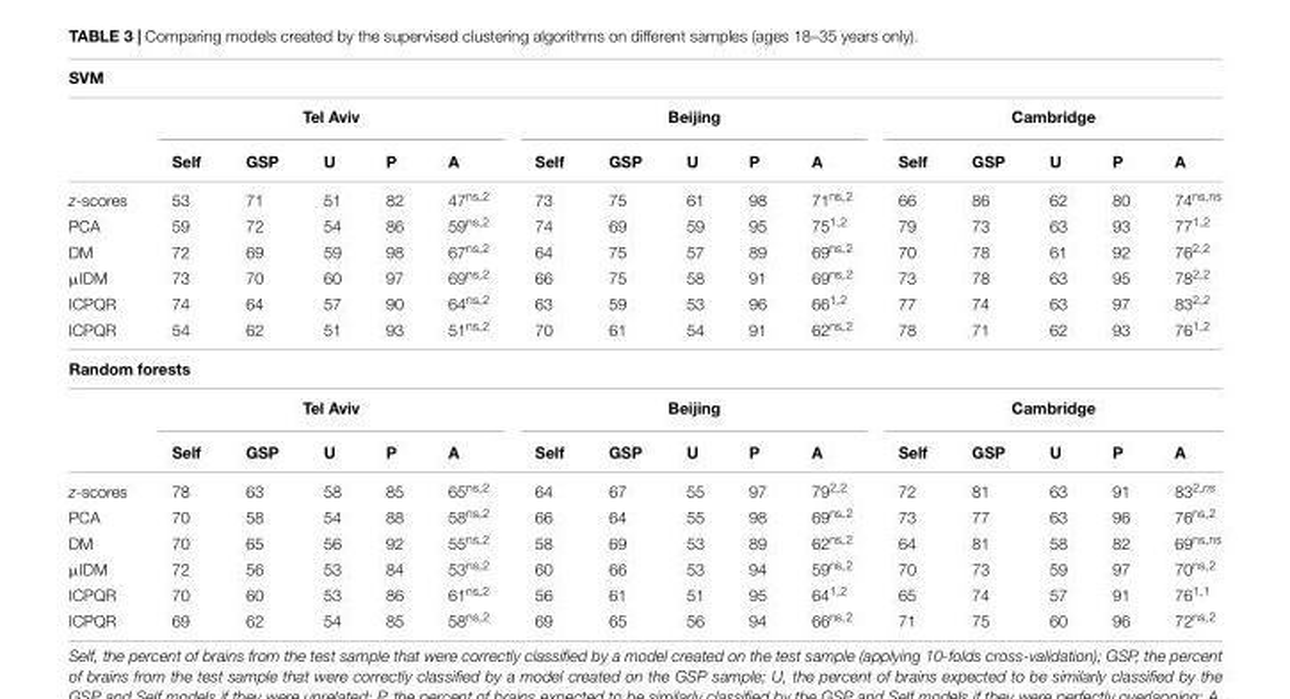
<table><thead><tr><td colspan="16">SVM</td></tr><tr><td rowspan="2"></td><td colspan="5">Tel Aviv</td><td colspan="5">Beijing</td><td colspan="5">Cambridge</td></tr><tr><td>Self</td><td>GSP</td><td>U</td><td>P</td><td>A</td><td>Self</td><td>GSP</td><td>U</td><td>P</td><td>A</td><td>Self</td><td>GSP</td><td>U</td><td>P</td><td>A</td></tr></thead><tbody><tr><td>z-scores</td><td>53</td><td>71</td><td>51</td><td>82</td><td>47<sup>ns,2</sup></td><td>73</td><td>75</td><td>61</td><td>98</td><td>71<sup>ns,2</sup></td><td>66</td><td>86</td><td>62</td><td>80</td><td>74<sup>ns,ns</sup></td></tr><tr><td>PCA</td><td>59</td><td>72</td><td>54</td><td>86</td><td>59<sup>ns,2</sup></td><td>74</td><td>69</td><td>59</td><td>95</td><td>75<sup>1,2</sup></td><td>79</td><td>73</td><td>63</td><td>93</td><td>77<sup>1,2</sup></td></tr><tr><td>DM</td><td>72</td><td>69</td><td>59</td><td>98</td><td>67<sup>ns,2</sup></td><td>64</td><td>75</td><td>57</td><td>89</td><td>69<sup>ns,2</sup></td><td>70</td><td>78</td><td>61</td><td>92</td><td>76<sup>2,2</sup></td></tr><tr><td>µIDM</td><td>73</td><td>70</td><td>60</td><td>97</td><td>69<sup>ns,2</sup></td><td>66</td><td>75</td><td>58</td><td>91</td><td>69<sup>ns,2</sup></td><td>73</td><td>78</td><td>63</td><td>95</td><td>78<sup>2,2</sup></td></tr><tr><td>ICPQR</td><td>74</td><td>64</td><td>57</td><td>90</td><td>64<sup>ns,2</sup></td><td>63</td><td>59</td><td>53</td><td>96</td><td>66<sup>1,2</sup></td><td>77</td><td>74</td><td>63</td><td>97</td><td>83<sup>2,2</sup></td></tr><tr><td>ICPQR</td><td>54</td><td>62</td><td>51</td><td>93</td><td>51<sup>ns,2</sup></td><td>70</td><td>61</td><td>54</td><td>91</td><td>62<sup>ns,2</sup></td><td>78</td><td>71</td><td>62</td><td>93</td><td>76<sup>1,2</sup></td></tr><tr><td colspan="16">Random forests</td></tr><tr><td></td><td colspan="5">Tel Aviv</td><td colspan="5">Beijing</td><td colspan="5">Cambridge</td></tr><tr><td></td><td>Self</td><td>GSP</td><td>U</td><td>P</td><td>A</td><td>Self</td><td>GSP</td><td>U</td><td>P</td><td>A</td><td>Self</td><td>GSP</td><td>U</td><td>P</td><td>A</td></tr><tr><td>z-scores</td><td>78</td><td>63</td><td>58</td><td>85</td><td>65<sup>ns,2</sup></td><td>64</td><td>67</td><td>55</td><td>97</td><td>79<sup>2,2</sup></td><td>72</td><td>81</td><td>63</td><td>91</td><td>83<sup>2,ns</sup></td></tr><tr><td>PCA</td><td>70</td><td>58</td><td>54</td><td>88</td><td>58<sup>ns,2</sup></td><td>66</td><td>64</td><td>55</td><td>98</td><td>69<sup>ns,2</sup></td><td>73</td><td>77</td><td>63</td><td>96</td><td>76<sup>ns,2</sup></td></tr><tr><td>DM</td><td>70</td><td>65</td><td>56</td><td>92</td><td>55<sup>ns,2</sup></td><td>58</td><td>69</td><td>53</td><td>89</td><td>62<sup>ns,2</sup></td><td>64</td><td>81</td><td>58</td><td>82</td><td>69<sup>ns,ns</sup></td></tr><tr><td>µIDM</td><td>72</td><td>56</td><td>53</td><td>84</td><td>53<sup>ns,2</sup></td><td>60</td><td>66</td><td>53</td><td>94</td><td>59<sup>ns,2</sup></td><td>70</td><td>73</td><td>59</td><td>97</td><td>70<sup>ns,2</sup></td></tr><tr><td>ICPQR</td><td>70</td><td>60</td><td>53</td><td>86</td><td>61<sup>ns,2</sup></td><td>56</td><td>61</td><td>51</td><td>95</td><td>64<sup>1,2</sup></td><td>65</td><td>74</td><td>57</td><td>91</td><td>76<sup>1,1</sup></td></tr><tr><td>ICPQR</td><td>69</td><td>62</td><td>54</td><td>85</td><td>58<sup>ns,2</sup></td><td>69</td><td>65</td><td>56</td><td>94</td><td>66<sup>ns,2</sup></td><td>71</td><td>75</td><td>60</td><td>96</td><td>72<sup>ns,2</sup></td></tr></tbody></table>